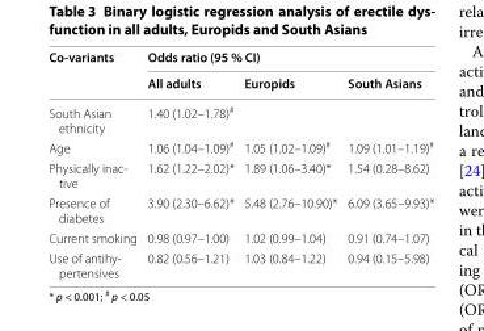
<table><thead><tr><td rowspan="2">Co-variants</td><td colspan="3">Odds ratio (95 % CI)</td></tr><tr><td>All adults</td><td>Europids</td><td>South Asians</td></tr></thead><tbody><tr><td>South Asian ethnicity</td><td>1.40 (1.02–1.78)<sup>#</sup></td><td></td><td></td></tr><tr><td>Age</td><td>1.06 (1.04–1.09)<sup>#</sup></td><td>1.05 (1.02–1.09)<sup>#</sup></td><td>1.09 (1.01–1.19)<sup>#</sup></td></tr><tr><td>Physically inac- tive</td><td>1.62 (1.22–2.02)*</td><td>1.89 (1.06–3.40)*</td><td>1.54 (0.28–8.62)</td></tr><tr><td>Presence of diabetes</td><td>3.90 (2.30–6.62)*</td><td>5.48 (2.76–10.90)*</td><td>6.09 (3.65–9.93)*</td></tr><tr><td>Current smoking</td><td>0.98 (0.97–1.00)</td><td>1.02 (0.99–1.04)</td><td>0.91 (0.74–1.07)</td></tr><tr><td>Use of antihy- pertensives</td><td>0.82 (0.56–1.21)</td><td>1.03 (0.84–1.22)</td><td>0.94 (0.15–5.98)</td></tr></tbody></table>